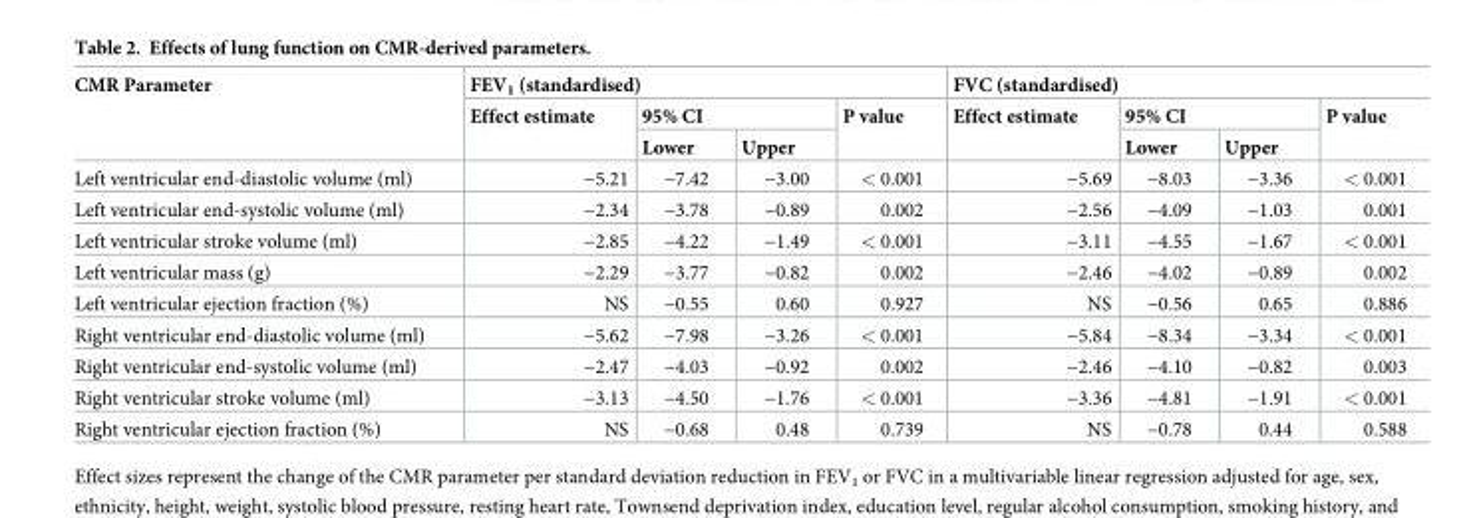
<table><thead><tr><td rowspan="3">CMR Parameter</td><td colspan="4">FEV<sub>1</sub> (standardised)</td><td colspan="4">FVC (standardised)</td></tr><tr><td rowspan="2">Effect estimate</td><td colspan="2">95% CI</td><td rowspan="2">P value</td><td rowspan="2">Effect estimate</td><td colspan="2">95% CI</td><td rowspan="2">P value</td></tr><tr><td>Lower</td><td>Upper</td><td>Lower</td><td>Upper</td></tr></thead><tbody><tr><td>Left ventricular end-diastolic volume (ml)</td><td>−5.21</td><td>−7.42</td><td>−3.00</td><td>&lt; 0.001</td><td>−5.69</td><td>−8.03</td><td>−3.36</td><td>&lt; 0.001</td></tr><tr><td>Left ventricular end-systolic volume (ml)</td><td>−2.34</td><td>−3.78</td><td>−0.89</td><td>0.002</td><td>−2.56</td><td>−4.09</td><td>−1.03</td><td>0.001</td></tr><tr><td>Left ventricular stroke volume (ml)</td><td>−2.85</td><td>−4.22</td><td>−1.49</td><td>&lt; 0.001</td><td>−3.11</td><td>−4.55</td><td>−1.67</td><td>&lt; 0.001</td></tr><tr><td>Left ventricular mass (g)</td><td>−2.29</td><td>−3.77</td><td>−0.82</td><td>0.002</td><td>−2.46</td><td>−4.02</td><td>−0.89</td><td>0.002</td></tr><tr><td>Left ventricular ejection fraction (%)</td><td>NS</td><td>−0.55</td><td>0.60</td><td>0.927</td><td>NS</td><td>−0.56</td><td>0.65</td><td>0.886</td></tr><tr><td>Right ventricular end-diastolic volume (ml)</td><td>−5.62</td><td>−7.98</td><td>−3.26</td><td>&lt; 0.001</td><td>−5.84</td><td>−8.34</td><td>−3.34</td><td>&lt; 0.001</td></tr><tr><td>Right ventricular end-systolic volume (ml)</td><td>−2.47</td><td>−4.03</td><td>−0.92</td><td>0.002</td><td>−2.46</td><td>−4.10</td><td>−0.82</td><td>0.003</td></tr><tr><td>Right ventricular stroke volume (ml)</td><td>−3.13</td><td>−4.50</td><td>−1.76</td><td>&lt; 0.001</td><td>−3.36</td><td>−4.81</td><td>−1.91</td><td>&lt; 0.001</td></tr><tr><td>Right ventricular ejection fraction (%)</td><td>NS</td><td>−0.68</td><td>0.48</td><td>0.739</td><td>NS</td><td>−0.78</td><td>0.44</td><td>0.588</td></tr></tbody></table>